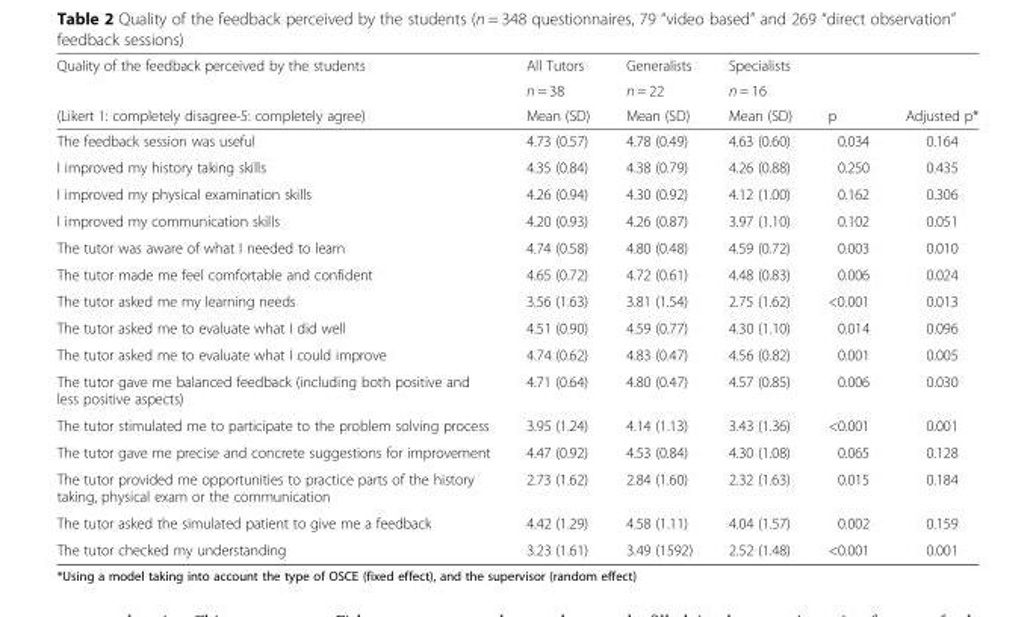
<table><thead><tr><td rowspan="3">Quality of the feedback perceived by the students (Likert 1: completely disagree-5: completely agree)</td><td rowspan="3">All Tutors n = 38 Mean (SD)</td><td rowspan="3">Generalists n = 22 Mean (SD)</td><td rowspan="3">Specialists n = 16 Mean (SD)</td><td rowspan="3">p</td><td rowspan="3">Adjusted p*</td></tr><tr></tr><tr></tr></thead><tbody><tr><td>The feedback session was useful</td><td>4.73 (0.57)</td><td>4.78 (0.49)</td><td>4.63 (0.60)</td><td>0.034</td><td>0.164</td></tr><tr><td>I improved my history taking skills</td><td>4.35 (0.84)</td><td>4.38 (0.79)</td><td>4.26 (0.88)</td><td>0.250</td><td>0.435</td></tr><tr><td>I improved my physical examination skills</td><td>4.26 (0.94)</td><td>4.30 (0.92)</td><td>4.12 (1.00)</td><td>0.162</td><td>0.306</td></tr><tr><td>I improved my communication skills</td><td>4.20 (0.93)</td><td>4.26 (0.87)</td><td>3.97 (1.10)</td><td>0.102</td><td>0.051</td></tr><tr><td>The tutor was aware of what I needed to learn</td><td>4.74 (0.58)</td><td>4.80 (0.48)</td><td>4.59 (0.72)</td><td>0.003</td><td>0.010</td></tr><tr><td>The tutor made me feel comfortable and confident</td><td>4.65 (0.72)</td><td>4.72 (0.61)</td><td>4.48 (0.83)</td><td>0.006</td><td>0.024</td></tr><tr><td>The tutor asked me my learning needs</td><td>3.56 (1.63)</td><td>3.81 (1.54)</td><td>2.75 (1.62)</td><td>&lt;0.001</td><td>0.013</td></tr><tr><td>The tutor asked me to evaluate what I did well</td><td>4.51 (0.90)</td><td>4.59 (0.77)</td><td>4.30 (1.10)</td><td>0.014</td><td>0.096</td></tr><tr><td>The tutor asked me to evaluate what I could improve</td><td>4.74 (0.62)</td><td>4.83 (0.47)</td><td>4.56 (0.82)</td><td>0.001</td><td>0.005</td></tr><tr><td>The tutor gave me balanced feedback (including both positive and less positive aspects)</td><td>4.71 (0.64)</td><td>4.80 (0.47)</td><td>4.57 (0.85)</td><td>0.006</td><td>0.030</td></tr><tr><td>The tutor stimulated me to participate to the problem solving process</td><td>3.95 (1.24)</td><td>4.14 (1.13)</td><td>3.43 (1.36)</td><td>&lt;0.001</td><td>0.001</td></tr><tr><td>The tutor gave me precise and concrete suggestions for improvement</td><td>4.47 (0.92)</td><td>4.53 (0.84)</td><td>4.30 (1.08)</td><td>0.065</td><td>0.128</td></tr><tr><td>The tutor provided me opportunities to practice parts of the history taking, physical exam or the communication</td><td>2.73 (1.62)</td><td>2.84 (1.60)</td><td>2.32 (1.63)</td><td>0.015</td><td>0.184</td></tr><tr><td>The tutor asked the simulated patient to give me a feedback</td><td>4.42 (1.29)</td><td>4.58 (1.11)</td><td>4.04 (1.57)</td><td>0.002</td><td>0.159</td></tr><tr><td>The tutor checked my understanding</td><td>3.23 (1.61)</td><td>3.49 (1592)</td><td>2.52 (1.48)</td><td>&lt;0.001</td><td>0.001</td></tr></tbody></table>